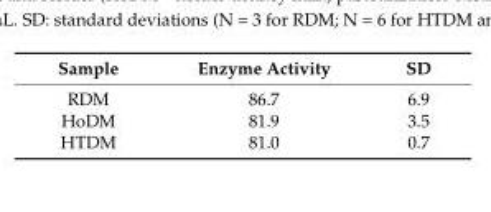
<table><thead><tr><td>Sample</td><td>Enzyme Activity</td><td>SD</td></tr></thead><tbody><tr><td>RDM</td><td>86.7</td><td>6.9</td></tr><tr><td>HoDM</td><td>81.9</td><td>3.5</td></tr><tr><td>HTDM</td><td>81.0</td><td>0.7</td></tr></tbody></table>